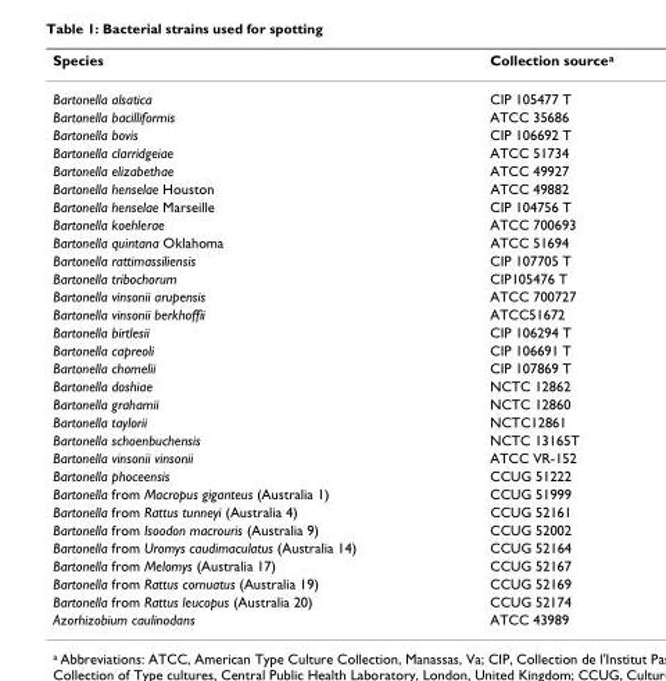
<table><thead><tr><td>Species</td><td>Collection source<sup>a</sup></td></tr></thead><tbody><tr><td>Bartonella alsatica</td><td>CIP 105477 T</td></tr><tr><td>Bartonella bacilliformis</td><td>ATCC 35686</td></tr><tr><td>Bartonella bovis</td><td>CIP 106692 T</td></tr><tr><td>Bartonella clarridgeiae</td><td>ATCC 51734</td></tr><tr><td>Bartonella elizabethae</td><td>ATCC 49927</td></tr><tr><td>Bartonella henselae Houston</td><td>ATCC 49882</td></tr><tr><td>Bartonella henselae Marseille</td><td>CIP 104756 T</td></tr><tr><td>Bartonella koehlerae</td><td>ATCC 700693</td></tr><tr><td>Bartonella quintana Oklahoma</td><td>ATCC 51694</td></tr><tr><td>Bartonella rattimassiliensis</td><td>CIP 107705 T</td></tr><tr><td>Bartonella tribochorum</td><td>CIP105476 T</td></tr><tr><td>Bartonella vinsonii arupensis</td><td>ATCC 700727</td></tr><tr><td>Bartonella vinsonii berkhoffii</td><td>ATCC51672</td></tr><tr><td>Bartonella birtlesii</td><td>CIP 106294 T</td></tr><tr><td>Bartonella capreoli</td><td>CIP 106691 T</td></tr><tr><td>Bartonella chomelii</td><td>CIP 107869 T</td></tr><tr><td>Bartonella doshiae</td><td>NCTC 12862</td></tr><tr><td>Bartonella grahamii</td><td>NCTC 12860</td></tr><tr><td>Bartonella taylorii</td><td>NCTC12861</td></tr><tr><td>Bartonella schoenbuchensis</td><td>NCTC 13165T</td></tr><tr><td>Bartonella vinsonii vinsonii</td><td>ATCC VR-152</td></tr><tr><td>Bartonella phoceensis</td><td>CCUG 51222</td></tr><tr><td>Bartonella from Macropus giganteus (Australia 1)</td><td>CCUG 51999</td></tr><tr><td>Bartonella from Rattus tunneyi (Australia 4)</td><td>CCUG 52161</td></tr><tr><td>Bartonella from Isoodon macrouris (Australia 9)</td><td>CCUG 52002</td></tr><tr><td>Bartonella from Uromys caudimaculatus (Australia 14)</td><td>CCUG 52164</td></tr><tr><td>Bartonella from Melomys (Australia 17)</td><td>CCUG 52167</td></tr><tr><td>Bartonella from Rattus cornuatus (Australia 19)</td><td>CCUG 52169</td></tr><tr><td>Bartonella from Rattus leucopus (Australia 20)</td><td>CCUG 52174</td></tr><tr><td>Azorhizobium caulinodans</td><td>ATCC 43989</td></tr></tbody></table>